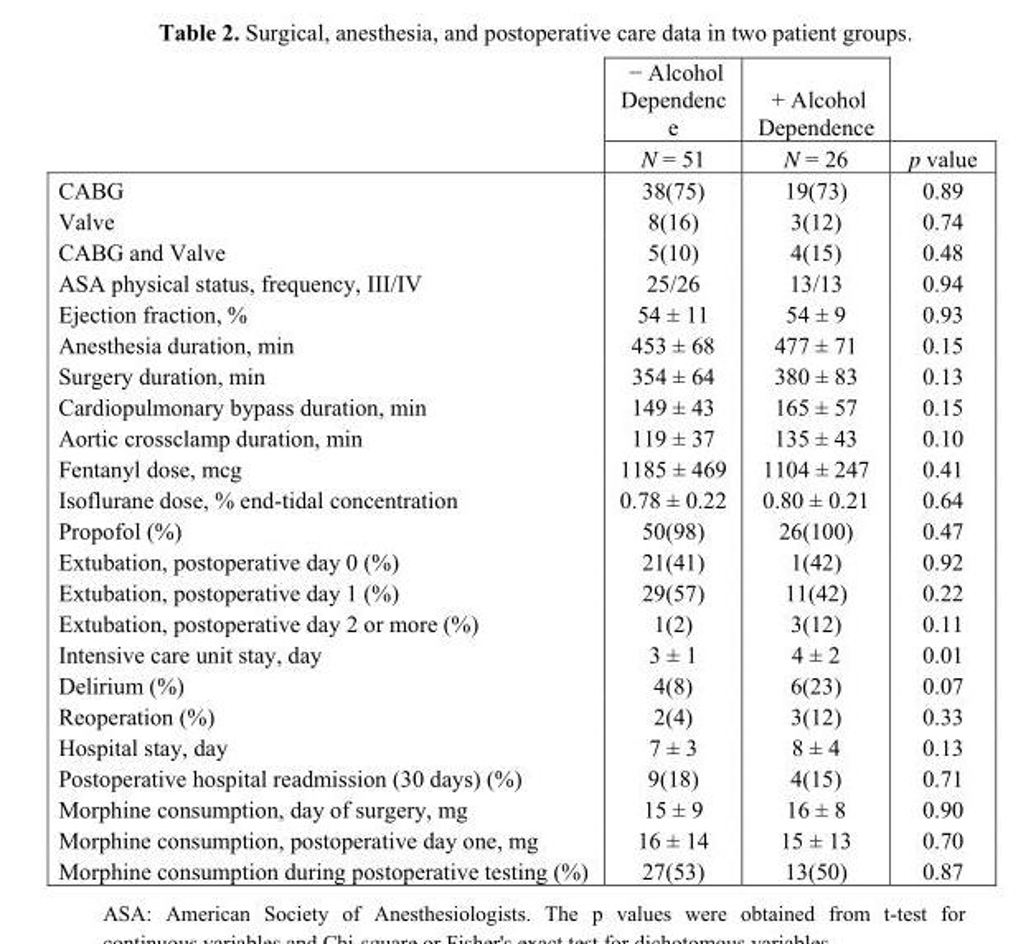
<table><thead><tr><td rowspan="2"></td><td rowspan="2">− Alcohol Dependenc e N = 51</td><td rowspan="2">+ Alcohol Dependence N = 26</td><td rowspan="2">p value</td></tr><tr></tr></thead><tbody><tr><td>CABG</td><td>38(75)</td><td>19(73)</td><td>0.89</td></tr><tr><td>Valve</td><td>8(16)</td><td>3(12)</td><td>0.74</td></tr><tr><td>CABG and Valve</td><td>5(10)</td><td>4(15)</td><td>0.48</td></tr><tr><td>ASA physical status, frequency, III/IV</td><td>25/26</td><td>13/13</td><td>0.94</td></tr><tr><td>Ejection fraction, %</td><td>54 ± 11</td><td>54 ± 9</td><td>0.93</td></tr><tr><td>Anesthesia duration, min</td><td>453 ± 68</td><td>477 ± 71</td><td>0.15</td></tr><tr><td>Surgery duration, min</td><td>354 ± 64</td><td>380 ± 83</td><td>0.13</td></tr><tr><td>Cardiopulmonary bypass duration, min</td><td>149 ± 43</td><td>165 ± 57</td><td>0.15</td></tr><tr><td>Aortic crossclamp duration, min</td><td>119 ± 37</td><td>135 ± 43</td><td>0.10</td></tr><tr><td>Fentanyl dose, mcg</td><td>1185 ± 469</td><td>1104 ± 247</td><td>0.41</td></tr><tr><td>Isoflurane dose, % end-tidal concentration</td><td>0.78 ± 0.22</td><td>0.80 ± 0.21</td><td>0.64</td></tr><tr><td>Propofol (%)</td><td>50(98)</td><td>26(100)</td><td>0.47</td></tr><tr><td>Extubation, postoperative day 0 (%)</td><td>21(41)</td><td>1(42)</td><td>0.92</td></tr><tr><td>Extubation, postoperative day 1 (%)</td><td>29(57)</td><td>11(42)</td><td>0.22</td></tr><tr><td>Extubation, postoperative day 2 or more (%)</td><td>1(2)</td><td>3(12)</td><td>0.11</td></tr><tr><td>Intensive care unit stay, day</td><td>3 ± 1</td><td>4 ± 2</td><td>0.01</td></tr><tr><td>Delirium (%)</td><td>4(8)</td><td>6(23)</td><td>0.07</td></tr><tr><td>Reoperation (%)</td><td>2(4)</td><td>3(12)</td><td>0.33</td></tr><tr><td>Hospital stay, day</td><td>7 ± 3</td><td>8 ± 4</td><td>0.13</td></tr><tr><td>Postoperative hospital readmission (30 days) (%)</td><td>9(18)</td><td>4(15)</td><td>0.71</td></tr><tr><td>Morphine consumption, day of surgery, mg</td><td>15 ± 9</td><td>16 ± 8</td><td>0.90</td></tr><tr><td>Morphine consumption, postoperative day one, mg</td><td>16 ± 14</td><td>15 ± 13</td><td>0.70</td></tr><tr><td>Morphine consumption during postoperative testing (%)</td><td>27(53)</td><td>13(50)</td><td>0.87</td></tr></tbody></table>